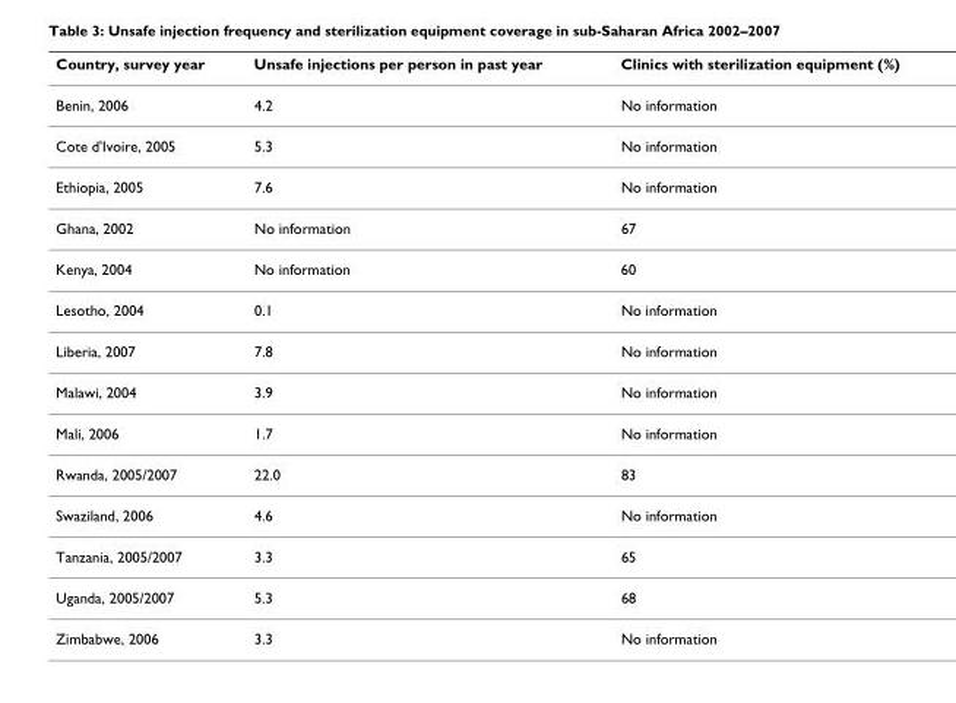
<table><thead><tr><td>Country, survey year</td><td>Unsafe injections per person in past year</td><td>Clinics with sterilization equipment (%)</td></tr></thead><tbody><tr><td>Benin, 2006</td><td>4.2</td><td>No information</td></tr><tr><td>Cote d&#x27;Ivoire, 2005</td><td>5.3</td><td>No information</td></tr><tr><td>Ethiopia, 2005</td><td>7.6</td><td>No information</td></tr><tr><td>Ghana, 2002</td><td>No information</td><td>67</td></tr><tr><td>Kenya, 2004</td><td>No information</td><td>60</td></tr><tr><td>Lesotho, 2004</td><td>0.1</td><td>No information</td></tr><tr><td>Liberia, 2007</td><td>7.8</td><td>No information</td></tr><tr><td>Malawi, 2004</td><td>3.9</td><td>No information</td></tr><tr><td>Mali, 2006</td><td>1.7</td><td>No information</td></tr><tr><td>Rwanda, 2005/2007</td><td>22.0</td><td>83</td></tr><tr><td>Swaziland, 2006</td><td>4.6</td><td>No information</td></tr><tr><td>Tanzania, 2005/2007</td><td>3.3</td><td>65</td></tr><tr><td>Uganda, 2005/2007</td><td>5.3</td><td>68</td></tr><tr><td>Zimbabwe, 2006</td><td>3.3</td><td>No information</td></tr></tbody></table>